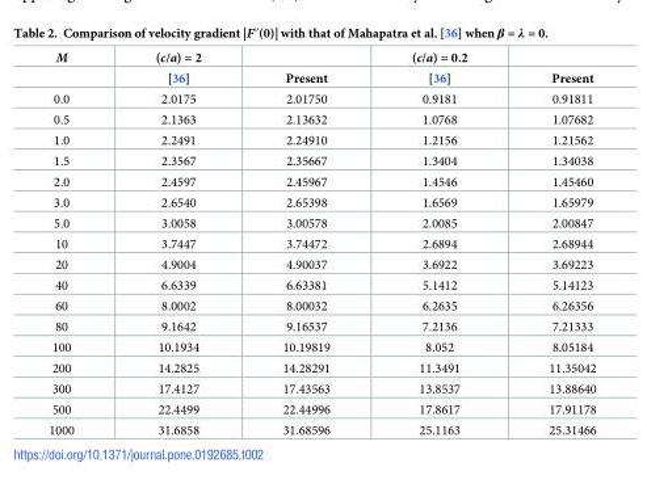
<table><thead><tr><td rowspan="2">M</td><td rowspan="2">(c/a) = 2 [36]</td><td rowspan="2">Present</td><td rowspan="2">(c/a) = 0.2 [36]</td><td rowspan="2">Present</td></tr><tr></tr></thead><tbody><tr><td>0.0</td><td>2.0175</td><td>2.01750</td><td>0.9181</td><td>0.91811</td></tr><tr><td>0.5</td><td>2.1363</td><td>2.13632</td><td>1.0768</td><td>1.07682</td></tr><tr><td>1.0</td><td>2.2491</td><td>2.24910</td><td>1.2156</td><td>1.21562</td></tr><tr><td>1.5</td><td>2.3567</td><td>2.35667</td><td>1.3404</td><td>1.34038</td></tr><tr><td>2.0</td><td>2.4597</td><td>2.45967</td><td>1.4546</td><td>1.45460</td></tr><tr><td>3.0</td><td>2.6540</td><td>2.65398</td><td>1.6569</td><td>1.65979</td></tr><tr><td>5.0</td><td>3.0058</td><td>3.00578</td><td>2.0085</td><td>2.00847</td></tr><tr><td>10</td><td>3.7447</td><td>3.74472</td><td>2.6894</td><td>2.68944</td></tr><tr><td>20</td><td>4.9004</td><td>4.90037</td><td>3.6922</td><td>3.69223</td></tr><tr><td>40</td><td>6.6339</td><td>6.63381</td><td>5.1412</td><td>5.14123</td></tr><tr><td>60</td><td>8.0002</td><td>8.00032</td><td>6.2635</td><td>6.26356</td></tr><tr><td>80</td><td>9.1642</td><td>9.16537</td><td>7.2136</td><td>7.21333</td></tr><tr><td>100</td><td>10.1934</td><td>10.19819</td><td>8.052</td><td>8.05184</td></tr><tr><td>200</td><td>14.2825</td><td>14.28291</td><td>11.3491</td><td>11.35042</td></tr><tr><td>300</td><td>17.4127</td><td>17.43563</td><td>13.8537</td><td>13.88640</td></tr><tr><td>500</td><td>22.4499</td><td>22.44996</td><td>17.8617</td><td>17.91178</td></tr><tr><td>1000</td><td>31.6858</td><td>31.68596</td><td>25.1163</td><td>25.31466</td></tr></tbody></table>